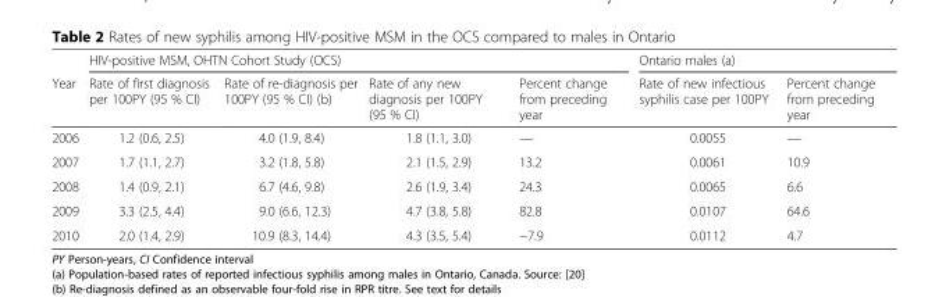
<table><thead><tr><td rowspan="2">Year</td><td colspan="4">HIV-positive MSM, OHTN Cohort Study (OCS)</td><td colspan="2">Ontario males (a)</td></tr><tr><td>Rate of first diagnosis per 100PY (95 % CI)</td><td>Rate of re-diagnosis per 100PY (95 % CI) (b)</td><td>Rate of any new diagnosis per 100PY (95 % CI)</td><td>Percent change from preceding year</td><td>Rate of new infectious syphilis case per 100PY</td><td>Percent change from preceding year</td></tr></thead><tbody><tr><td>2006</td><td>1.2 (0.6, 2.5)</td><td>4.0 (1.9, 8.4)</td><td>1.8 (1.1, 3.0)</td><td>—</td><td>0.0055</td><td>—</td></tr><tr><td>2007</td><td>1.7 (1.1, 2.7)</td><td>3.2 (1.8, 5.8)</td><td>2.1 (1.5, 2.9)</td><td>13.2</td><td>0.0061</td><td>10.9</td></tr><tr><td>2008</td><td>1.4 (0.9, 2.1)</td><td>6.7 (4.6, 9.8)</td><td>2.6 (1.9, 3.4)</td><td>24.3</td><td>0.0065</td><td>6.6</td></tr><tr><td>2009</td><td>3.3 (2.5, 4.4)</td><td>9.0 (6.6, 12.3)</td><td>4.7 (3.8, 5.8)</td><td>82.8</td><td>0.0107</td><td>64.6</td></tr><tr><td>2010</td><td>2.0 (1.4, 2.9)</td><td>10.9 (8.3, 14.4)</td><td>4.3 (3.5, 5.4)</td><td>−7.9</td><td>0.0112</td><td>4.7</td></tr></tbody></table>